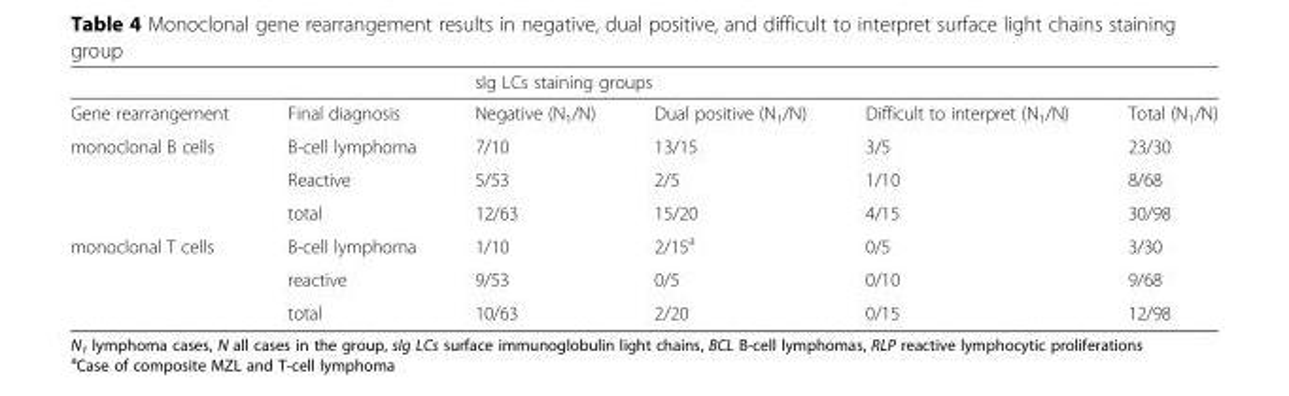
<table><thead><tr><td rowspan="2">Gene rearrangement</td><td rowspan="2">Final diagnosis</td><td colspan="3">sIg LCs staining groups</td><td rowspan="2">Total (N<sub>1</sub>/N)</td></tr><tr><td>Negative (N<sub>1</sub>/N)</td><td>Dual positive (N<sub>1</sub>/N)</td><td>Difficult to interpret (N<sub>1</sub>/N)</td></tr></thead><tbody><tr><td rowspan="3">monoclonal B cells</td><td>B-cell lymphoma</td><td>7/10</td><td>13/15</td><td>3/5</td><td>23/30</td></tr><tr><td>Reactive</td><td>5/53</td><td>2/5</td><td>1/10</td><td>8/68</td></tr><tr><td>total</td><td>12/63</td><td>15/20</td><td>4/15</td><td>30/98</td></tr><tr><td rowspan="3">monoclonal T cells</td><td>B-cell lymphoma</td><td>1/10</td><td>2/15<sup>a</sup></td><td>0/5</td><td>3/30</td></tr><tr><td>reactive</td><td>9/53</td><td>0/5</td><td>0/10</td><td>9/68</td></tr><tr><td>total</td><td>10/63</td><td>2/20</td><td>0/15</td><td>12/98</td></tr></tbody></table>